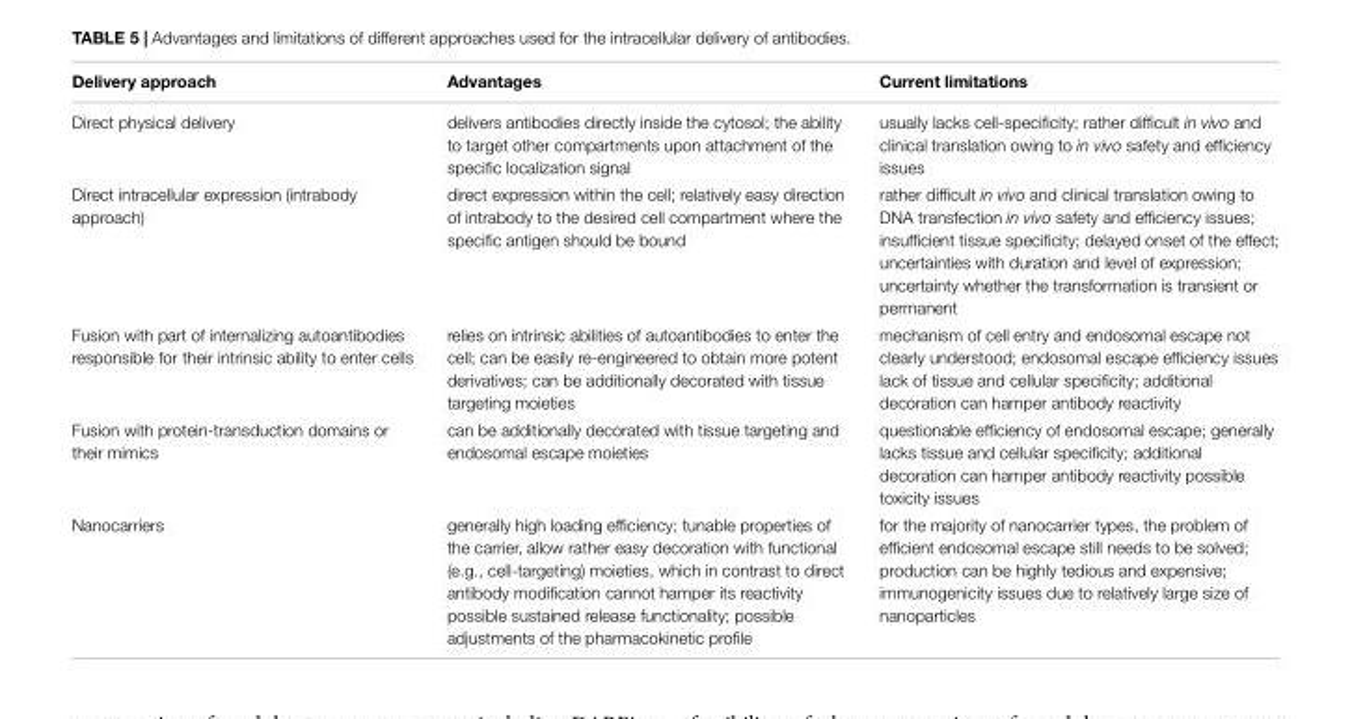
<table><thead><tr><td>Delivery approach</td><td>Advantages</td><td>Current limitations</td></tr></thead><tbody><tr><td>Direct physical delivery</td><td>delivers antibodies directly inside the cytosol; the ability to target other compartments upon attachment of the specific localization signal</td><td>usually lacks cell-specificity; rather difficult in vivo and clinical translation owing to in vivo safety and efficiency issues</td></tr><tr><td>Direct intracellular expression (intrabody approach)</td><td>direct expression within the cell; relatively easy direction of intrabody to the desired cell compartment where the specific antigen should be bound</td><td>rather difficult in vivo and clinical translation owing to DNA transfection in vivo safety and efficiency issues; insufficient tissue specificity; delayed onset of the effect; uncertainties with duration and level of expression; uncertainty whether the transformation is transient or permanent</td></tr><tr><td>Fusion with part of internalizing autoantibodies responsible for their intrinsic ability to enter cells</td><td>relies on intrinsic abilities of autoantibodies to enter the cell; can be easily re-engineered to obtain more potent derivatives; can be additionally decorated with tissue targeting moieties</td><td>mechanism of cell entry and endosomal escape not clearly understood; endosomal escape efficiency issues lack of tissue and cellular specificity; additional decoration can hamper antibody reactivity</td></tr><tr><td>Fusion with protein-transduction domains or their mimics</td><td>can be additionally decorated with tissue targeting and endosomal escape moieties</td><td>questionable efficiency of endosomal escape; generally lacks tissue and cellular specificity; additional decoration can hamper antibody reactivity possible toxicity issues</td></tr><tr><td>Nanocarriers</td><td>generally high loading efficiency; tunable properties of the carrier, allow rather easy decoration with functional (e.g., cell-targeting) moieties, which in contrast to direct antibody modification cannot hamper its reactivity possible sustained release functionality; possible adjustments of the pharmacokinetic profile</td><td>for the majority of nanocarrier types, the problem of efficient endosomal escape still needs to be solved; production can be highly tedious and expensive; immunogenicity issues due to relatively large size of nanoparticles</td></tr></tbody></table>